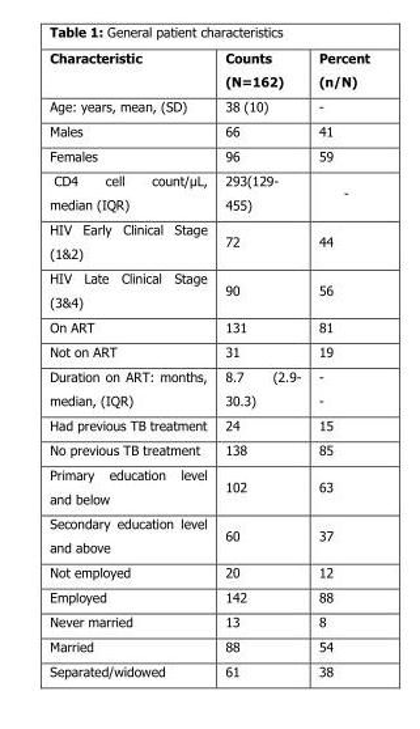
<table><thead><tr><td>Characteristic</td><td>Counts (N=162)</td><td>Percent (n/N)</td></tr></thead><tbody><tr><td>Age: years, mean, (SD)</td><td>38 (10)</td><td>-</td></tr><tr><td>Males</td><td>66</td><td>41</td></tr><tr><td>Females</td><td>96</td><td>59</td></tr><tr><td>CD4 cell count/µL, median (IQR)</td><td>293(129- 455)</td><td>-</td></tr><tr><td>HIV Early Clinical Stage (1&amp;2)</td><td>72</td><td>44</td></tr><tr><td>HIV Late Clinical Stage (3&amp;4)</td><td>90</td><td>56</td></tr><tr><td>On ART</td><td>131</td><td>81</td></tr><tr><td>Not on ART</td><td>31</td><td>19</td></tr><tr><td>Duration on ART: months, median, (IQR)</td><td>8.7 (2.9- 30.3)</td><td>- -</td></tr><tr><td>Had previous TB treatment</td><td>24</td><td>15</td></tr><tr><td>No previous TB treatment</td><td>138</td><td>85</td></tr><tr><td>Primary education level and below</td><td>102</td><td>63</td></tr><tr><td>Secondary education level and above</td><td>60</td><td>37</td></tr><tr><td>Not employed</td><td>20</td><td>12</td></tr><tr><td>Employed</td><td>142</td><td>88</td></tr><tr><td>Never married</td><td>13</td><td>8</td></tr><tr><td>Married</td><td>88</td><td>54</td></tr><tr><td>Separated/widowed</td><td>61</td><td>38</td></tr></tbody></table>